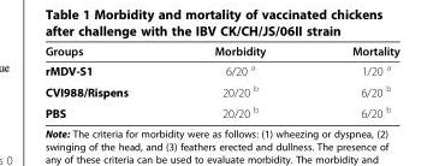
<table><thead><tr><td>Groups</td><td>Morbidity</td><td>Mortality</td></tr></thead><tbody><tr><td>rMDV-S1</td><td>6/20 <sup>a</sup></td><td>1/20 <sup>a</sup></td></tr><tr><td>CVI988/Rispens</td><td>20/20 <sup>b</sup></td><td>6/20 <sup>b</sup></td></tr><tr><td>PBS</td><td>20/20 <sup>b</sup></td><td>6/20 <sup>b</sup></td></tr></tbody></table>